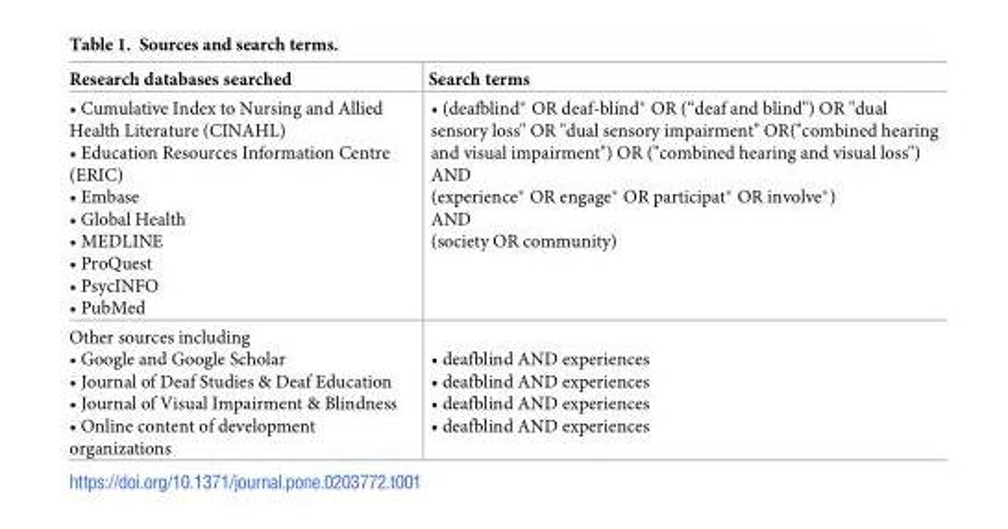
<table><thead><tr><td>Research databases searched</td><td>Search terms</td></tr></thead><tbody><tr><td>• Cumulative Index to Nursing and Allied Health Literature (CINAHL) • Education Resources Information Centre (ERIC) • Embase • Global Health • MEDLINE • ProQuest • PsycINFO • PubMed</td><td>• (deafblind* OR deaf-blind* OR (“deaf and blind&quot;) OR &quot;dual sensory loss&quot; OR &quot;dual sensory impairment&quot; OR(&quot;combined hearing and visual impairment&quot;) OR (&quot;combined hearing and visual loss&quot;) AND (experience* OR engage* OR participat* OR involve*) AND (society OR community)</td></tr><tr><td>Other sources including • Google and Google Scholar • Journal of Deaf Studies &amp; Deaf Education • Journal of Visual Impairment &amp; Blindness • Online content of development organizations</td><td>• deafblind AND experiences • deafblind AND experiences • deafblind AND experiences • deafblind AND experiences</td></tr></tbody></table>